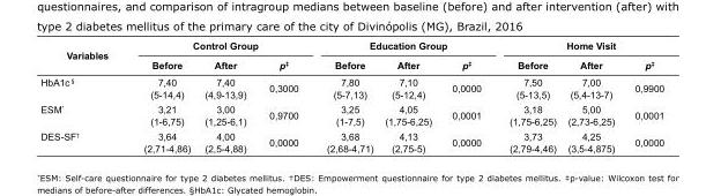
<table><tbody><tr><td rowspan="2">Variables</td><td colspan="3">Control Group</td><td colspan="3">Education Group</td><td colspan="3">Home Visit</td></tr><tr><td>Before</td><td>After</td><td>p<sup>‡</sup></td><td>Before</td><td>After</td><td>p<sup>‡</sup></td><td>Before</td><td>After</td><td>p<sup>‡</sup></td></tr><tr><td>HbA1c <sup>§</sup></td><td>7,40 (5-14,4)</td><td>7,40 (4,9-13,9)</td><td>0,3000</td><td>7,80 (5-7,13)</td><td>7,10 (5-12,4)</td><td>0,0000</td><td>7,50 (5-13,5)</td><td>7,00 (5,4-13-7)</td><td>0,9900</td></tr><tr><td>ESM*</td><td>3,21 (1-6,75)</td><td>3,00 (1,25-6,1)</td><td>0,9700</td><td>3,25 (1-7,5)</td><td>4,05 (1,75-6,25)</td><td>0,0001</td><td>3,18 (1,75-6,25)</td><td>5,00 (2,73-6,25)</td><td>0,0001</td></tr><tr><td>DES-SF<sup>†</sup></td><td>3,64 (2,71-4,86)</td><td>4,00 (2,5-4,88)</td><td>0,0000</td><td>3,68 (2,68-4,71)</td><td>4,13 (2,75-5)</td><td>0,0000</td><td>3,73 (2,79-4,46)</td><td>4,25 (3,5-4,875)</td><td>0,0000</td></tr></tbody></table>